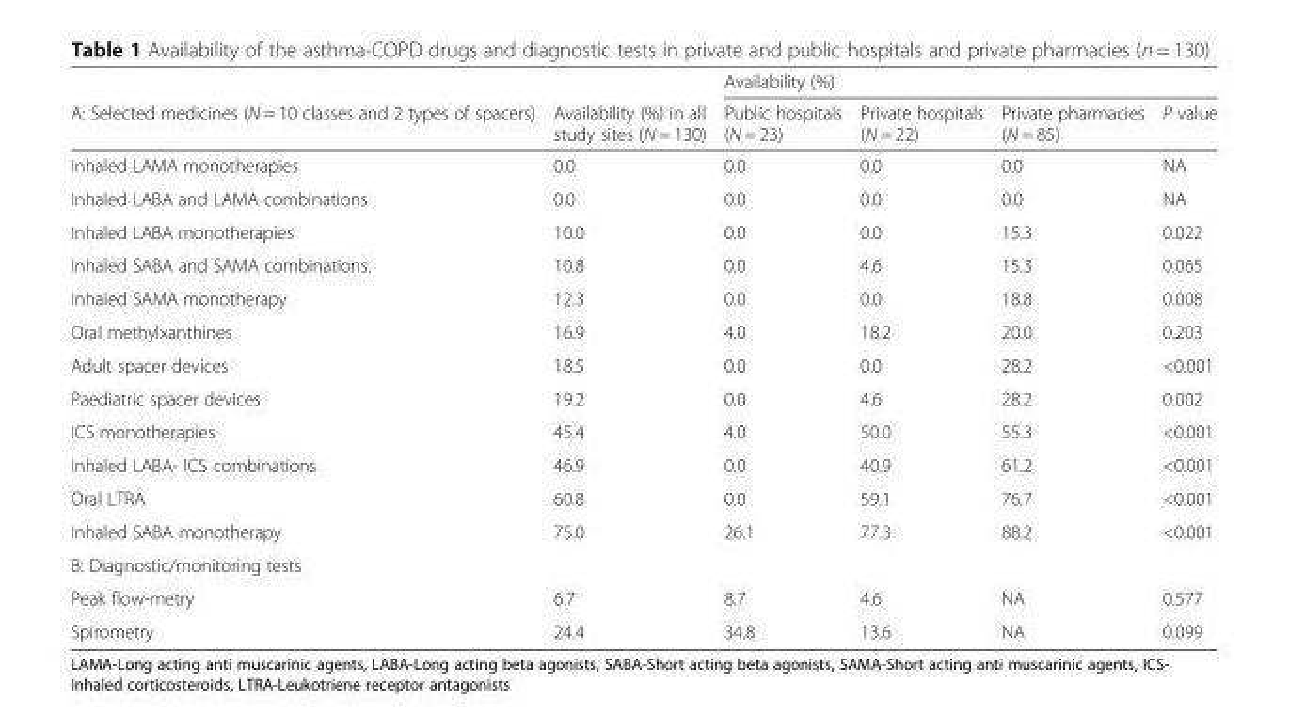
<table><thead><tr><td rowspan="2">A: Selected medicines (N = 10 classes and 2 types of spacers)</td><td rowspan="2">Availability (%) in all study sites (N = 130)</td><td colspan="4">Availability (%)</td></tr><tr><td>Public hospitals (N = 23)</td><td>Private hospitals (N = 22)</td><td>Private pharmacies (N = 85)</td><td>P value</td></tr></thead><tbody><tr><td>Inhaled LAMA monotherapies</td><td>0.0</td><td>0.0</td><td>0.0</td><td>0.0</td><td>NA</td></tr><tr><td>Inhaled LABA and LAMA combinations</td><td>0.0</td><td>0.0</td><td>0.0</td><td>0.0</td><td>NA</td></tr><tr><td>Inhaled LABA monotherapies</td><td>10.0</td><td>0.0</td><td>0.0</td><td>15.3</td><td>0.022</td></tr><tr><td>Inhaled SABA and SAMA combinations.</td><td>10.8</td><td>0.0</td><td>4.6</td><td>15.3</td><td>0.065</td></tr><tr><td>Inhaled SAMA monotherapy</td><td>12.3</td><td>0.0</td><td>0.0</td><td>18.8</td><td>0.008</td></tr><tr><td>Oral methylxanthines</td><td>16.9</td><td>4.0</td><td>18.2</td><td>20.0</td><td>0.203</td></tr><tr><td>Adult spacer devices</td><td>18.5</td><td>0.0</td><td>0.0</td><td>28.2</td><td>&lt;0.001</td></tr><tr><td>Paediatric spacer devices</td><td>19.2</td><td>0.0</td><td>4.6</td><td>28.2</td><td>0.002</td></tr><tr><td>ICS monotherapies</td><td>45.4</td><td>4.0</td><td>50.0</td><td>55.3</td><td>&lt;0.001</td></tr><tr><td>Inhaled LABA- ICS combinations</td><td>46.9</td><td>0.0</td><td>40.9</td><td>61.2</td><td>&lt;0.001</td></tr><tr><td>Oral LTRA</td><td>60.8</td><td>0.0</td><td>59.1</td><td>76.7</td><td>&lt;0.001</td></tr><tr><td>Inhaled SABA monotherapy</td><td>75.0</td><td>26.1</td><td>77.3</td><td>88.2</td><td>&lt;0.001</td></tr><tr><td colspan="6">B: Diagnostic/monitoring tests</td></tr><tr><td>Peak flow-metry</td><td>6.7</td><td>8.7</td><td>4.6</td><td>NA</td><td>0.577</td></tr><tr><td>Spirometry</td><td>24.4</td><td>34.8</td><td>13.6</td><td>NA</td><td>0.099</td></tr></tbody></table>